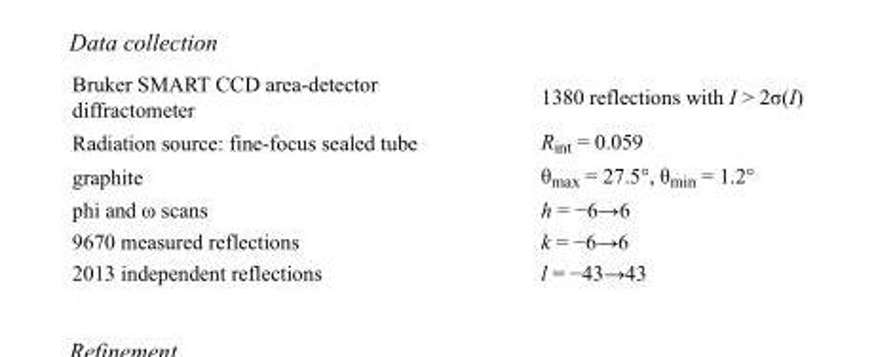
<table><tbody><tr><td>Bruker SMART CCD area-detector diffractometer</td><td>1380 reflections with I &gt; 2σ(I)</td></tr><tr><td>Radiation source: fine-focus sealed tube</td><td>R<sub>int</sub> = 0.059</td></tr><tr><td>graphite</td><td>θ<sub>max</sub> = 27.5°, θ<sub>min</sub> = 1.2°</td></tr><tr><td>phi and ω scans</td><td>h = −6→6</td></tr><tr><td>9670 measured reflections</td><td>k = −6→6</td></tr><tr><td>2013 independent reflections</td><td>l = −43→43</td></tr></tbody></table>